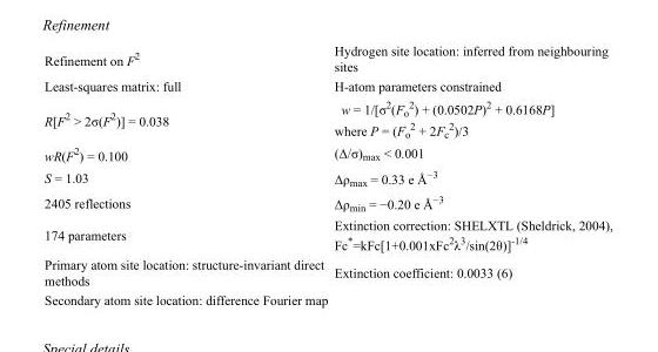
<table><tbody><tr><td>Refinement on F<sup>2</sup></td><td>Hydrogen site location: inferred from neighbouring sites</td></tr><tr><td>Least-squares matrix: full</td><td>H-atom parameters constrained</td></tr><tr><td>R[F<sup>2</sup> &gt; 2σ(F<sup>2</sup>)] = 0.038</td><td>w = 1/[σ<sup>2</sup>(F<sub>o</sub> <sup>2</sup>) + (0.0502P)<sup>2</sup> + 0.6168P] where P = (F<sub>o</sub> <sup>2</sup> + 2F<sub>c</sub> <sup>2</sup>)/3</td></tr><tr><td>wR(F<sup>2</sup>) = 0.100</td><td>(Δ/σ)<sub>max</sub> &lt; 0.001</td></tr><tr><td>S = 1.03</td><td>Δρ<sub>max</sub> = 0.33 e Å<sup>−3</sup></td></tr><tr><td>2405 reflections</td><td>Δρ<sub>min</sub> = −0.20 e Å<sup>−3</sup></td></tr><tr><td>174 parameters</td><td>Extinction correction: SHELXTL (Sheldrick, 2004), Fc*=kFc[1+0.001xFc<sup>2</sup>λ<sup>3</sup>/sin(2θ)]<sup>-1/4</sup></td></tr><tr><td>Primary atom site location: structure-invariant direct methods</td><td>Extinction coefficient: 0.0033 (6)</td></tr><tr><td>Secondary atom site location: difference Fourier map</td><td></td></tr></tbody></table>